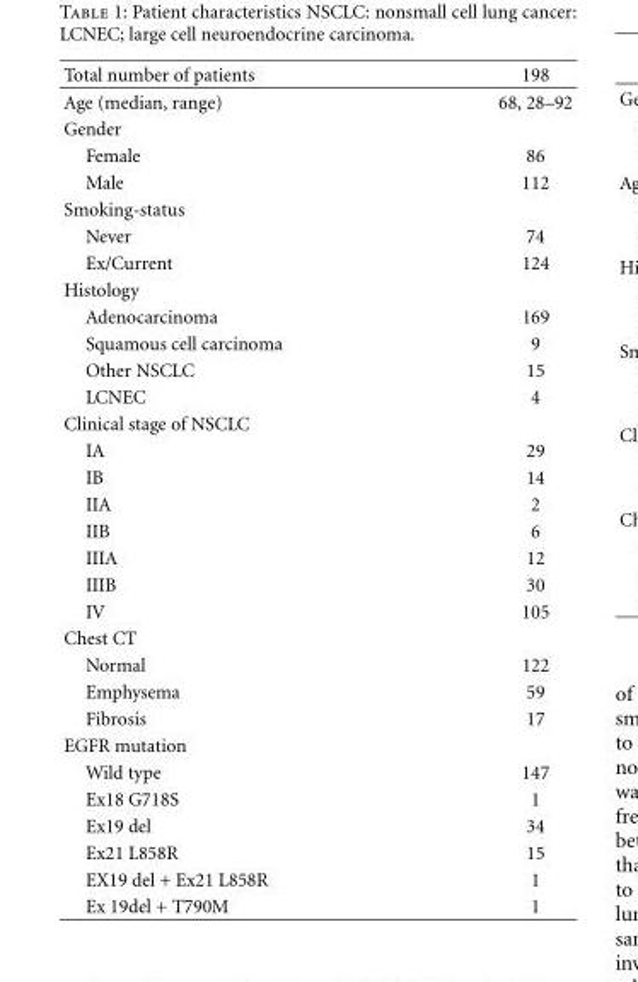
<table><thead><tr><td>Total number of patients</td><td>198</td></tr></thead><tbody><tr><td>Age (median, range)</td><td>68, 28–92</td></tr><tr><td colspan="2">Gender</td></tr><tr><td>Female</td><td>86</td></tr><tr><td>Male</td><td>112</td></tr><tr><td colspan="2">Smoking-status</td></tr><tr><td>Never</td><td>74</td></tr><tr><td>Ex/Current</td><td>124</td></tr><tr><td colspan="2">Histology</td></tr><tr><td>Adenocarcinoma</td><td>169</td></tr><tr><td>Squamous cell carcinoma</td><td>9</td></tr><tr><td>Other NSCLC</td><td>15</td></tr><tr><td>LCNEC</td><td>4</td></tr><tr><td colspan="2">Clinical stage of NSCLC</td></tr><tr><td>IA</td><td>29</td></tr><tr><td>IB</td><td>14</td></tr><tr><td>IIA</td><td>2</td></tr><tr><td>IIB</td><td>6</td></tr><tr><td>IIIA</td><td>12</td></tr><tr><td>IIIB</td><td>30</td></tr><tr><td>IV</td><td>105</td></tr><tr><td colspan="2">Chest CT</td></tr><tr><td>Normal</td><td>122</td></tr><tr><td>Emphysema</td><td>59</td></tr><tr><td>Fibrosis</td><td>17</td></tr><tr><td colspan="2">EGFR mutation</td></tr><tr><td>Wild type</td><td>147</td></tr><tr><td>Ex18 G718S</td><td>1</td></tr><tr><td>Ex19 del</td><td>34</td></tr><tr><td>Ex21 L858R</td><td>15</td></tr><tr><td>EX19 del + Ex21 L858R</td><td>1</td></tr><tr><td>Ex 19del + T790M</td><td>1</td></tr></tbody></table>